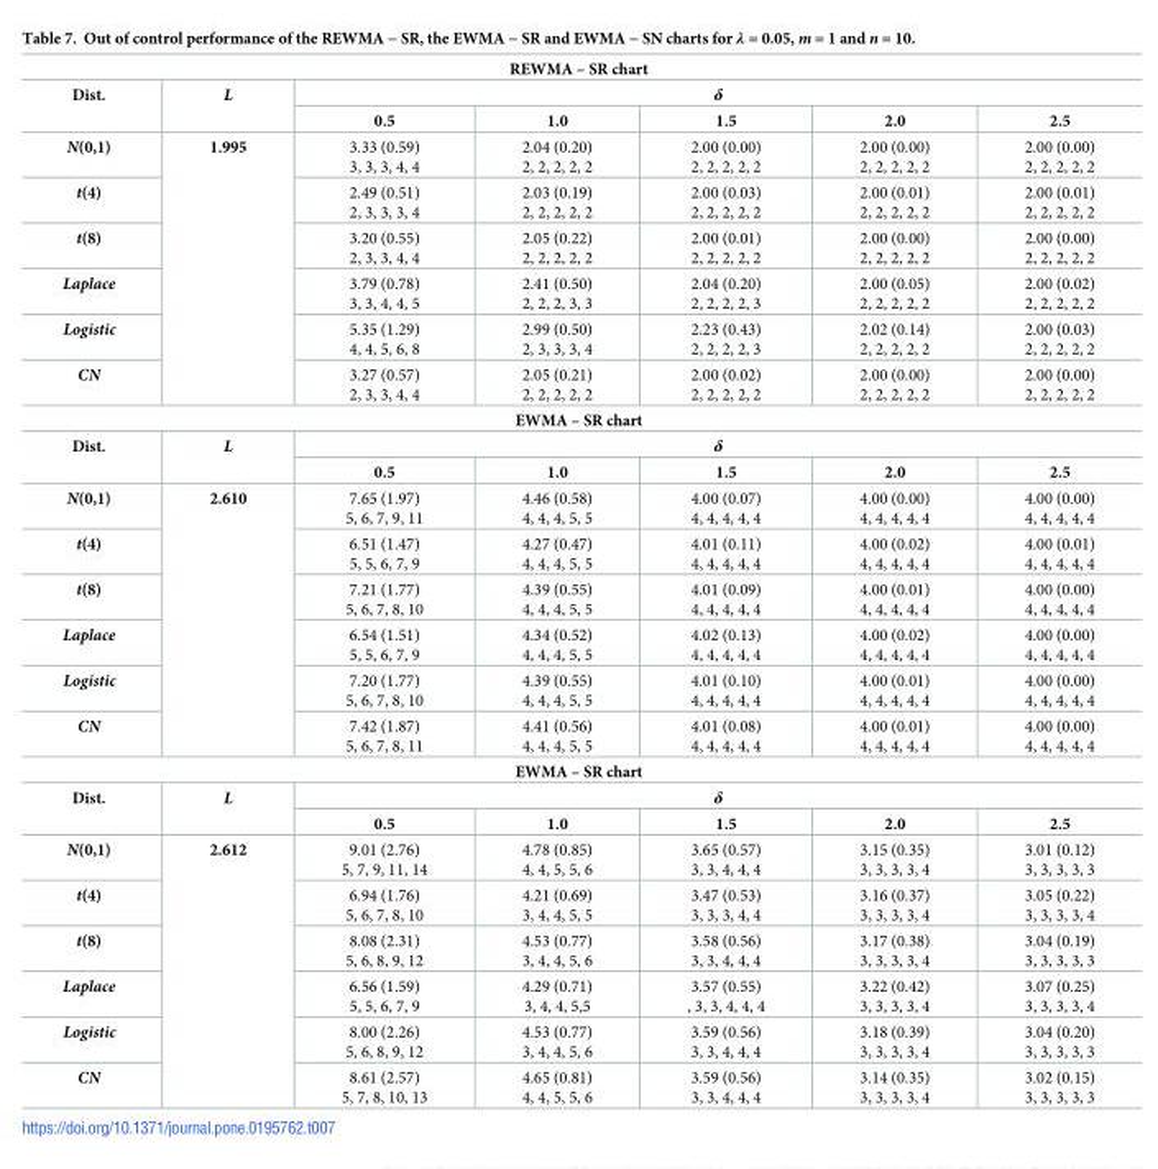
<table><tbody><tr><td colspan="7">REWMA – SR chart</td></tr><tr><td rowspan="2">Dist.</td><td rowspan="2">L</td><td colspan="5">δ</td></tr><tr><td>0.5</td><td>1.0</td><td>1.5</td><td>2.0</td><td>2.5</td></tr><tr><td>N(0,1)</td><td rowspan="6">1.995</td><td>3.33 (0.59) 3, 3, 3, 4, 4</td><td>2.04 (0.20) 2, 2, 2, 2, 2</td><td>2.00 (0.00) 2, 2, 2, 2, 2</td><td>2.00 (0.00) 2, 2, 2, 2, 2</td><td>2.00 (0.00) 2, 2, 2, 2, 2</td></tr><tr><td>t(4)</td><td>2.49 (0.51) 2, 3, 3, 3, 4</td><td>2.03 (0.19) 2, 2, 2, 2, 2</td><td>2.00 (0.03) 2, 2, 2, 2, 2</td><td>2.00 (0.01) 2, 2, 2, 2, 2</td><td>2.00 (0.01) 2, 2, 2, 2, 2</td></tr><tr><td>t(8)</td><td>3.20 (0.55) 2, 3, 3, 4, 4</td><td>2.05 (0.22) 2, 2, 2, 2, 2</td><td>2.00 (0.01) 2, 2, 2, 2, 2</td><td>2.00 (0.00) 2, 2, 2, 2, 2</td><td>2.00 (0.00) 2, 2, 2, 2, 2</td></tr><tr><td>Laplace</td><td>3.79 (0.78) 3, 3, 4, 4, 5</td><td>2.41 (0.50) 2, 2, 2, 3, 3</td><td>2.04 (0.20) 2, 2, 2, 2, 3</td><td>2.00 (0.05) 2, 2, 2, 2, 2</td><td>2.00 (0.02) 2, 2, 2, 2, 2</td></tr><tr><td>Logistic</td><td>5.35 (1.29) 4, 4, 5, 6, 8</td><td>2.99 (0.50) 2, 3, 3, 3, 4</td><td>2.23 (0.43) 2, 2, 2, 2, 3</td><td>2.02 (0.14) 2, 2, 2, 2, 2</td><td>2.00 (0.03) 2, 2, 2, 2, 2</td></tr><tr><td>CN</td><td>3.27 (0.57) 2, 3, 3, 4, 4</td><td>2.05 (0.21) 2, 2, 2, 2, 2</td><td>2.00 (0.02) 2, 2, 2, 2, 2</td><td>2.00 (0.00) 2, 2, 2, 2, 2</td><td>2.00 (0.00) 2, 2, 2, 2, 2</td></tr><tr><td colspan="7">EWMA – SR chart</td></tr><tr><td rowspan="2">Dist.</td><td rowspan="2">L</td><td colspan="5">δ</td></tr><tr><td>0.5</td><td>1.0</td><td>1.5</td><td>2.0</td><td>2.5</td></tr><tr><td>N(0,1)</td><td rowspan="6">2.610</td><td>7.65 (1.97) 5, 6, 7, 9, 11</td><td>4.46 (0.58) 4, 4, 4, 5, 5</td><td>4.00 (0.07) 4, 4, 4, 4, 4</td><td>4.00 (0.00) 4, 4, 4, 4, 4</td><td>4.00 (0.00) 4, 4, 4, 4, 4</td></tr><tr><td>t(4)</td><td>6.51 (1.47) 5, 5, 6, 7, 9</td><td>4.27 (0.47) 4, 4, 4, 5, 5</td><td>4.01 (0.11) 4, 4, 4, 4, 4</td><td>4.00 (0.02) 4, 4, 4, 4, 4</td><td>4.00 (0.01) 4, 4, 4, 4, 4</td></tr><tr><td>t(8)</td><td>7.21 (1.77) 5, 6, 7, 8, 10</td><td>4.39 (0.55) 4, 4, 4, 5, 5</td><td>4.01 (0.09) 4, 4, 4, 4, 4</td><td>4.00 (0.01) 4, 4, 4, 4, 4</td><td>4.00 (0.00) 4, 4, 4, 4, 4</td></tr><tr><td>Laplace</td><td>6.54 (1.51) 5, 5, 6, 7, 9</td><td>4.34 (0.52) 4, 4, 4, 5, 5</td><td>4.02 (0.13) 4, 4, 4, 4, 4</td><td>4.00 (0.02) 4, 4, 4, 4, 4</td><td>4.00 (0.00) 4, 4, 4, 4, 4</td></tr><tr><td>Logistic</td><td>7.20 (1.77) 5, 6, 7, 8, 10</td><td>4.39 (0.55) 4, 4, 4, 5, 5</td><td>4.01 (0.10) 4, 4, 4, 4, 4</td><td>4.00 (0.01) 4, 4, 4, 4, 4</td><td>4.00 (0.00) 4, 4, 4, 4, 4</td></tr><tr><td>CN</td><td>7.42 (1.87) 5, 6, 7, 8, 11</td><td>4.41 (0.56) 4, 4, 4, 5, 5</td><td>4.01 (0.08) 4, 4, 4, 4, 4</td><td>4.00 (0.01) 4, 4, 4, 4, 4</td><td>4.00 (0.00) 4, 4, 4, 4, 4</td></tr><tr><td colspan="7">EWMA – SR chart</td></tr><tr><td rowspan="2">Dist.</td><td rowspan="2">L</td><td colspan="5">δ</td></tr><tr><td>0.5</td><td>1.0</td><td>1.5</td><td>2.0</td><td>2.5</td></tr><tr><td>N(0,1)</td><td rowspan="6">2.612</td><td>9.01 (2.76) 5, 7, 9, 11, 14</td><td>4.78 (0.85) 4, 4, 5, 5, 6</td><td>3.65 (0.57) 3, 3, 4, 4, 4</td><td>3.15 (0.35) 3, 3, 3, 3, 4</td><td>3.01 (0.12) 3, 3, 3, 3, 3</td></tr><tr><td>t(4)</td><td>6.94 (1.76) 5, 6, 7, 8, 10</td><td>4.21 (0.69) 3, 4, 4, 5, 5</td><td>3.47 (0.53) 3, 3, 3, 4, 4</td><td>3.16 (0.37) 3, 3, 3, 3, 4</td><td>3.05 (0.22) 3, 3, 3, 3, 4</td></tr><tr><td>t(8)</td><td>8.08 (2.31) 5, 6, 8, 9, 12</td><td>4.53 (0.77) 3, 4, 4, 5, 6</td><td>3.58 (0.56) 3, 3, 4, 4, 4</td><td>3.17 (0.38) 3, 3, 3, 3, 4</td><td>3.04 (0.19) 3, 3, 3, 3, 3</td></tr><tr><td>Laplace</td><td>6.56 (1.59) 5, 5, 6, 7, 9</td><td>4.29 (0.71) 3, 4, 4, 5,5</td><td>3.57 (0.55) , 3, 3, 4, 4, 4</td><td>3.22 (0.42) 3, 3, 3, 3, 4</td><td>3.07 (0.25) 3, 3, 3, 3, 4</td></tr><tr><td>Logistic</td><td>8.00 (2.26) 5, 6, 8, 9, 12</td><td>4.53 (0.77) 3, 4, 4, 5, 6</td><td>3.59 (0.56) 3, 3, 4, 4, 4</td><td>3.18 (0.39) 3, 3, 3, 3, 4</td><td>3.04 (0.20) 3, 3, 3, 3, 3</td></tr><tr><td>CN</td><td>8.61 (2.57) 5, 7, 8, 10, 13</td><td>4.65 (0.81) 4, 4, 5, 5, 6</td><td>3.59 (0.56) 3, 3, 4, 4, 4</td><td>3.14 (0.35) 3, 3, 3, 3, 4</td><td>3.02 (0.15) 3, 3, 3, 3, 3</td></tr></tbody></table>